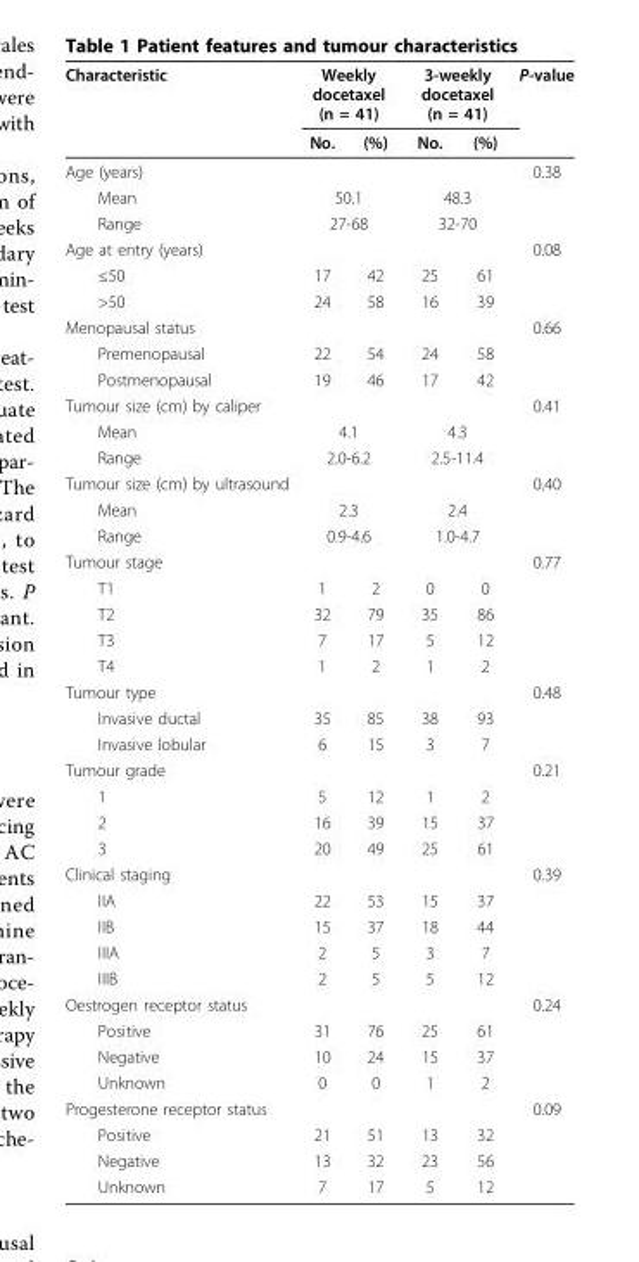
<table><thead><tr><td rowspan="2">Characteristic</td><td colspan="2">Weekly docetaxel (n = 41)</td><td colspan="2">3-weekly docetaxel (n = 41)</td><td rowspan="2">P-value</td></tr><tr><td>No.</td><td>(%)</td><td>No.</td><td>(%)</td></tr></thead><tbody><tr><td>Age (years)</td><td></td><td></td><td></td><td></td><td>0.38</td></tr><tr><td>Mean</td><td colspan="2">50.1</td><td colspan="2">48.3</td><td></td></tr><tr><td>Range</td><td colspan="2">27-68</td><td colspan="2">32-70</td><td></td></tr><tr><td>Age at entry (years)</td><td></td><td></td><td></td><td></td><td>0.08</td></tr><tr><td>≤50</td><td>17</td><td>42</td><td>25</td><td>61</td><td></td></tr><tr><td>&gt;50</td><td>24</td><td>58</td><td>16</td><td>39</td><td></td></tr><tr><td>Menopausal status</td><td></td><td></td><td></td><td></td><td>0.66</td></tr><tr><td>Premenopausal</td><td>22</td><td>54</td><td>24</td><td>58</td><td></td></tr><tr><td>Postmenopausal</td><td>19</td><td>46</td><td>17</td><td>42</td><td></td></tr><tr><td>Tumour size (cm) by caliper</td><td></td><td></td><td></td><td></td><td>0.41</td></tr><tr><td>Mean</td><td colspan="2">4.1</td><td colspan="2">4.3</td><td></td></tr><tr><td>Range</td><td colspan="2">2.0-6.2</td><td colspan="2">2.5-11.4</td><td></td></tr><tr><td>Tumour size (cm) by ultrasound</td><td></td><td></td><td></td><td></td><td>0.40</td></tr><tr><td>Mean</td><td colspan="2">2.3</td><td colspan="2">2.4</td><td></td></tr><tr><td>Range</td><td colspan="2">0.9-4.6</td><td colspan="2">1.0-4.7</td><td></td></tr><tr><td>Tumour stage</td><td></td><td></td><td></td><td></td><td>0.77</td></tr><tr><td>T1</td><td>1</td><td>2</td><td>0</td><td>0</td><td></td></tr><tr><td>T2</td><td>32</td><td>79</td><td>35</td><td>86</td><td></td></tr><tr><td>T3</td><td>7</td><td>17</td><td>5</td><td>12</td><td></td></tr><tr><td>T4</td><td>1</td><td>2</td><td>1</td><td>2</td><td></td></tr><tr><td>Tumour type</td><td></td><td></td><td></td><td></td><td>0.48</td></tr><tr><td>Invasive ductal</td><td>35</td><td>85</td><td>38</td><td>93</td><td></td></tr><tr><td>Invasive lobular</td><td>6</td><td>15</td><td>3</td><td>7</td><td></td></tr><tr><td>Tumour grade</td><td></td><td></td><td></td><td></td><td>0.21</td></tr><tr><td>1</td><td>5</td><td>12</td><td>1</td><td>2</td><td></td></tr><tr><td>2</td><td>16</td><td>39</td><td>15</td><td>37</td><td></td></tr><tr><td>3</td><td>20</td><td>49</td><td>25</td><td>61</td><td></td></tr><tr><td>Clinical staging</td><td></td><td></td><td></td><td></td><td>0.39</td></tr><tr><td>IIA</td><td>22</td><td>53</td><td>15</td><td>37</td><td></td></tr><tr><td>IIB</td><td>15</td><td>37</td><td>18</td><td>44</td><td></td></tr><tr><td>IIIA</td><td>2</td><td>5</td><td>3</td><td>7</td><td></td></tr><tr><td>IIIB</td><td>2</td><td>5</td><td>5</td><td>12</td><td></td></tr><tr><td>Oestrogen receptor status</td><td></td><td></td><td></td><td></td><td>0.24</td></tr><tr><td>Positive</td><td>31</td><td>76</td><td>25</td><td>61</td><td></td></tr><tr><td>Negative</td><td>10</td><td>24</td><td>15</td><td>37</td><td></td></tr><tr><td>Unknown</td><td>0</td><td>0</td><td>1</td><td>2</td><td></td></tr><tr><td>Progesterone receptor status</td><td></td><td></td><td></td><td></td><td>0.09</td></tr><tr><td>Positive</td><td>21</td><td>51</td><td>13</td><td>32</td><td></td></tr><tr><td>Negative</td><td>13</td><td>32</td><td>23</td><td>56</td><td></td></tr><tr><td>Unknown</td><td>7</td><td>17</td><td>5</td><td>12</td><td></td></tr></tbody></table>